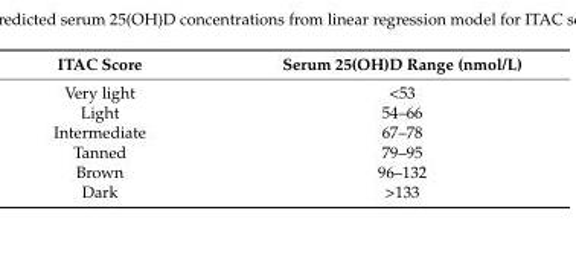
<table><thead><tr><td>ITAC Score</td><td>Serum 25(OH)D Range (nmol/L)</td></tr></thead><tbody><tr><td>Very light</td><td>&lt;53</td></tr><tr><td>Light</td><td>54–66</td></tr><tr><td>Intermediate</td><td>67–78</td></tr><tr><td>Tanned</td><td>79–95</td></tr><tr><td>Brown</td><td>96–132</td></tr><tr><td>Dark</td><td>&gt;133</td></tr></tbody></table>